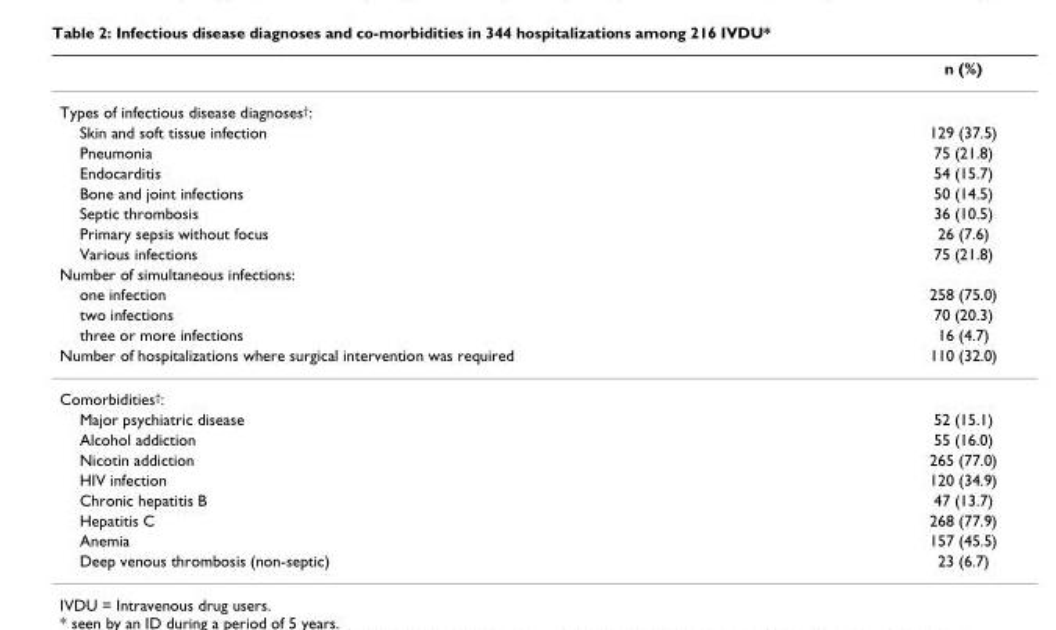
<table><thead><tr><td></td><td>n (%)</td></tr></thead><tbody><tr><td colspan="2">Types of infectious disease diagnoses<sup>†</sup>:</td></tr><tr><td>Skin and soft tissue infection</td><td>129 (37.5)</td></tr><tr><td>Pneumonia</td><td>75 (21.8)</td></tr><tr><td>Endocarditis</td><td>54 (15.7)</td></tr><tr><td>Bone and joint infections</td><td>50 (14.5)</td></tr><tr><td>Septic thrombosis</td><td>36 (10.5)</td></tr><tr><td>Primary sepsis without focus</td><td>26 (7.6)</td></tr><tr><td>Various infections</td><td>75 (21.8)</td></tr><tr><td colspan="2">Number of simultaneous infections:</td></tr><tr><td>one infection</td><td>258 (75.0)</td></tr><tr><td>two infections</td><td>70 (20.3)</td></tr><tr><td>three or more infections</td><td>16 (4.7)</td></tr><tr><td>Number of hospitalizations where surgical intervention was required</td><td>110 (32.0)</td></tr><tr><td colspan="2">Comorbidities<sup>†</sup>:</td></tr><tr><td>Major psychiatric disease</td><td>52 (15.1)</td></tr><tr><td>Alcohol addiction</td><td>55 (16.0)</td></tr><tr><td>Nicotin addiction</td><td>265 (77.0)</td></tr><tr><td>HIV infection</td><td>120 (34.9)</td></tr><tr><td>Chronic hepatitis B</td><td>47 (13.7)</td></tr><tr><td>Hepatitis C</td><td>268 (77.9)</td></tr><tr><td>Anemia</td><td>157 (45.5)</td></tr><tr><td>Deep venous thrombosis (non-septic)</td><td>23 (6.7)</td></tr></tbody></table>